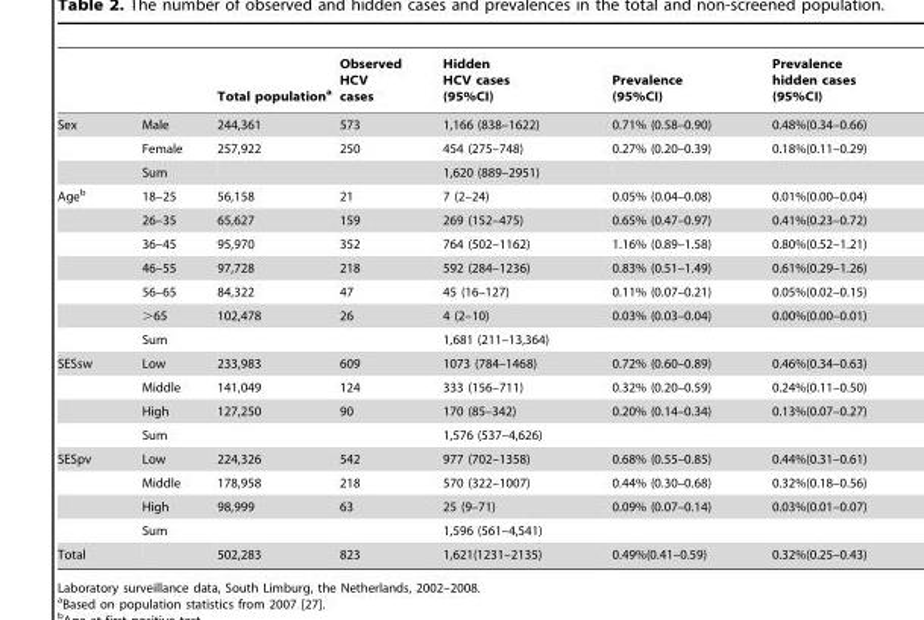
<table><thead><tr><td></td><td></td><td>Total population<sup>a</sup></td><td>Observed HCV cases</td><td>Hidden HCV cases (95%CI)</td><td>Prevalence (95%CI)</td><td>Prevalence hidden cases (95%CI)</td></tr></thead><tbody><tr><td rowspan="3">Sex</td><td>Male</td><td>244,361</td><td>573</td><td>1,166 (838–1622)</td><td>0.71% (0.58–0.90)</td><td>0.48%(0.34–0.66)</td></tr><tr><td>Female</td><td>257,922</td><td>250</td><td>454 (275–748)</td><td>0.27% (0.20–0.39)</td><td>0.18%(0.11–0.29)</td></tr><tr><td>Sum</td><td></td><td></td><td>1,620 (889–2951)</td><td></td><td></td></tr><tr><td rowspan="7">Age<sup>b</sup></td><td>18–25</td><td>56,158</td><td>21</td><td>7 (2–24)</td><td>0.05% (0.04–0.08)</td><td>0.01%(0.00–0.04)</td></tr><tr><td>26–35</td><td>65,627</td><td>159</td><td>269 (152–475)</td><td>0.65% (0.47–0.97)</td><td>0.41%(0.23–0.72)</td></tr><tr><td>36–45</td><td>95,970</td><td>352</td><td>764 (502–1162)</td><td>1.16% (0.89–1.58)</td><td>0.80%(0.52–1.21)</td></tr><tr><td>46–55</td><td>97,728</td><td>218</td><td>592 (284–1236)</td><td>0.83% (0.51–1.49)</td><td>0.61%(0.29–1.26)</td></tr><tr><td>56–65</td><td>84,322</td><td>47</td><td>45 (16–127)</td><td>0.11% (0.07–0.21)</td><td>0.05%(0.02–0.15)</td></tr><tr><td>&gt;65</td><td>102,478</td><td>26</td><td>4 (2–10)</td><td>0.03% (0.03–0.04)</td><td>0.00%(0.00–0.01)</td></tr><tr><td>Sum</td><td></td><td></td><td>1,681 (211–13,364)</td><td></td><td></td></tr><tr><td rowspan="4">SESsw</td><td>Low</td><td>233,983</td><td>609</td><td>1073 (784–1468)</td><td>0.72% (0.60–0.89)</td><td>0.46%(0.34–0.63)</td></tr><tr><td>Middle</td><td>141,049</td><td>124</td><td>333 (156–711)</td><td>0.32% (0.20–0.59)</td><td>0.24%(0.11–0.50)</td></tr><tr><td>High</td><td>127,250</td><td>90</td><td>170 (85–342)</td><td>0.20% (0.14–0.34)</td><td>0.13%(0.07–0.27)</td></tr><tr><td>Sum</td><td></td><td></td><td>1,576 (537–4,626)</td><td></td><td></td></tr><tr><td rowspan="4">SESpv</td><td>Low</td><td>224,326</td><td>542</td><td>977 (702–1358)</td><td>0.68% (0.55–0.85)</td><td>0.44%(0.31–0.61)</td></tr><tr><td>Middle</td><td>178,958</td><td>218</td><td>570 (322–1007)</td><td>0.44% (0.30–0.68)</td><td>0.32%(0.18–0.56)</td></tr><tr><td>High</td><td>98,999</td><td>63</td><td>25 (9–71)</td><td>0.09% (0.07–0.14)</td><td>0.03%(0.01–0.07)</td></tr><tr><td>Sum</td><td></td><td></td><td>1,596 (561–4,541)</td><td></td><td></td></tr><tr><td>Total</td><td></td><td>502,283</td><td>823</td><td>1,621(1231–2135)</td><td>0.49%(0.41–0.59)</td><td>0.32%(0.25–0.43)</td></tr></tbody></table>